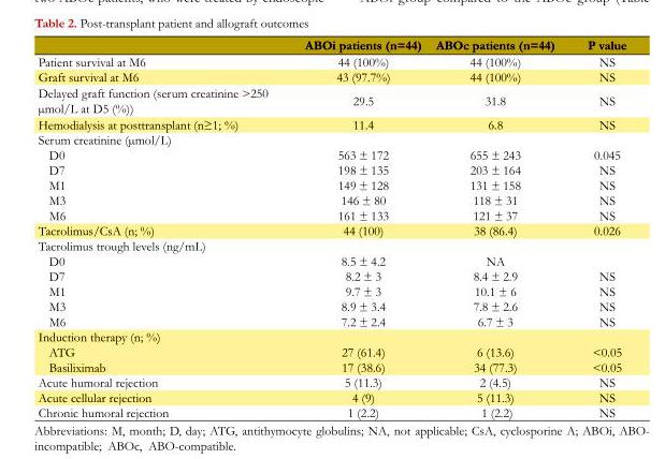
<table><thead><tr><td></td><td>ABOi patients (n=44)</td><td>ABOc patients (n=44)</td><td>P value</td></tr></thead><tbody><tr><td>Patient survival at M6</td><td>44 (100%)</td><td>44 (100%)</td><td>NS</td></tr><tr><td>Graft survival at M6</td><td>43 (97.7%)</td><td>44 (100%)</td><td>NS</td></tr><tr><td>Delayed graft function (serum creatinine &gt;250 µmol/L at D5 (%))</td><td>29.5</td><td>31.8</td><td>NS</td></tr><tr><td>Hemodialysis at posttransplant (n≥1; %)</td><td>11.4</td><td>6.8</td><td>NS</td></tr><tr><td colspan="4">Serum creatinine (µmol/L)</td></tr><tr><td>D0</td><td>563 ± 172</td><td>655 ± 243</td><td>0.045</td></tr><tr><td>D7</td><td>198 ± 135</td><td>203 ± 164</td><td>NS</td></tr><tr><td>M1</td><td>149 ± 128</td><td>131 ± 158</td><td>NS</td></tr><tr><td>M3</td><td>146 ± 80</td><td>118 ± 31</td><td>NS</td></tr><tr><td>M6</td><td>161 ± 133</td><td>121 ± 37</td><td>NS</td></tr><tr><td>Tacrolimus/CsA (n; %)</td><td>44 (100)</td><td>38 (86.4)</td><td>0.026</td></tr><tr><td colspan="4">Tacrolimus trough levels (ng/mL)</td></tr><tr><td>D0</td><td>8.5 ± 4.2</td><td>NA</td><td></td></tr><tr><td>D7</td><td>8.2 ± 3</td><td>8.4 ± 2.9</td><td>NS</td></tr><tr><td>M1</td><td>9.7 ± 3</td><td>10.1 ± 6</td><td>NS</td></tr><tr><td>M3</td><td>8.9 ± 3.4</td><td>7.8 ± 2.6</td><td>NS</td></tr><tr><td>M6</td><td>7.2 ± 2.4</td><td>6.7 ± 3</td><td>NS</td></tr><tr><td colspan="4">Induction therapy (n; %)</td></tr><tr><td>ATG</td><td>27 (61.4)</td><td>6 (13.6)</td><td>&lt;0.05</td></tr><tr><td>Basiliximab</td><td>17 (38.6)</td><td>34 (77.3)</td><td>&lt;0.05</td></tr><tr><td>Acute humoral rejection</td><td>5 (11.3)</td><td>2 (4.5)</td><td>NS</td></tr><tr><td>Acute cellular rejection</td><td>4 (9)</td><td>5 (11.3)</td><td>NS</td></tr><tr><td>Chronic humoral rejection</td><td>1 (2.2)</td><td>1 (2.2)</td><td>NS</td></tr></tbody></table>